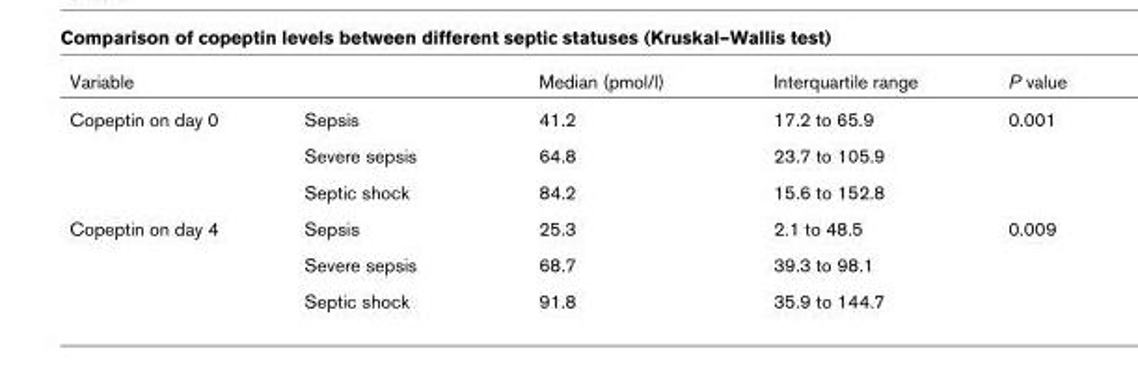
<table><thead><tr><td>Variable</td><td></td><td>Median (pmol/l)</td><td>Interquartile range</td><td>P value</td></tr></thead><tbody><tr><td rowspan="3">Copeptin on day 0</td><td>Sepsis</td><td>41.2</td><td>17.2 to 65.9</td><td>0.001</td></tr><tr><td>Severe sepsis</td><td>64.8</td><td>23.7 to 105.9</td><td></td></tr><tr><td>Septic shock</td><td>84.2</td><td>15.6 to 152.8</td><td></td></tr><tr><td rowspan="3">Copeptin on day 4</td><td>Sepsis</td><td>25.3</td><td>2.1 to 48.5</td><td>0.009</td></tr><tr><td>Severe sepsis</td><td>68.7</td><td>39.3 to 98.1</td><td></td></tr><tr><td>Septic shock</td><td>91.8</td><td>35.9 to 144.7</td><td></td></tr></tbody></table>